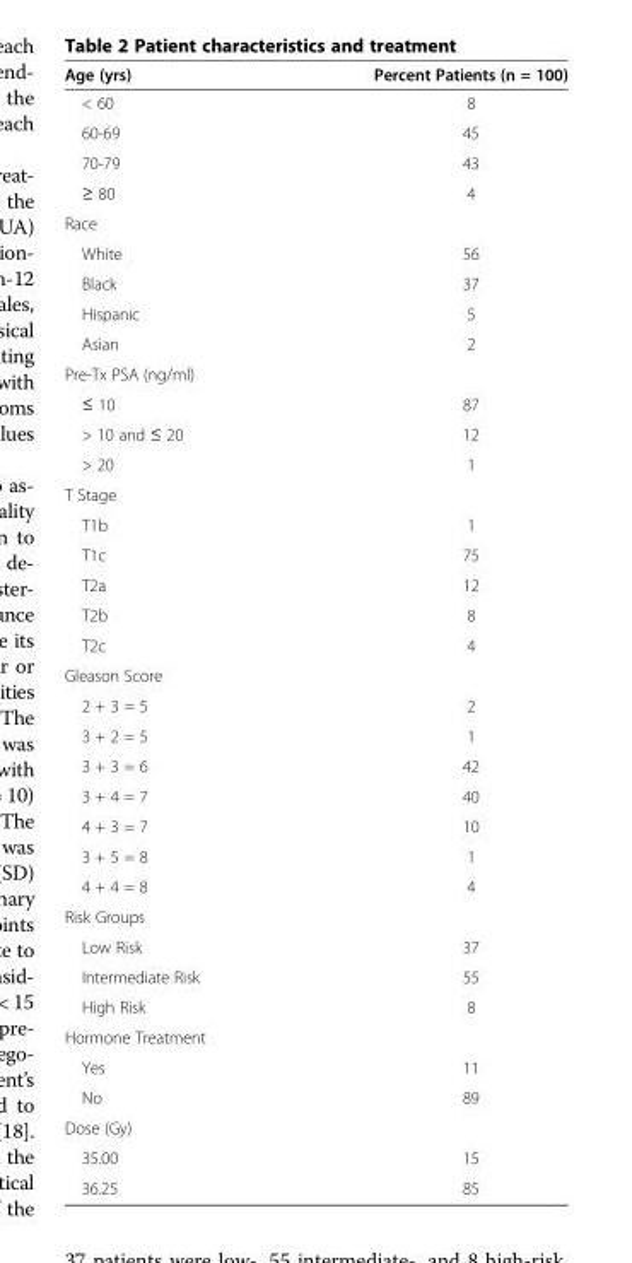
<table><thead><tr><td>Age (yrs)</td><td>Percent Patients (n = 100)</td></tr></thead><tbody><tr><td>&lt; 60</td><td>8</td></tr><tr><td>60-69</td><td>45</td></tr><tr><td>70-79</td><td>43</td></tr><tr><td>≥ 80</td><td>4</td></tr><tr><td colspan="2">Race</td></tr><tr><td>White</td><td>56</td></tr><tr><td>Black</td><td>37</td></tr><tr><td>Hispanic</td><td>5</td></tr><tr><td>Asian</td><td>2</td></tr><tr><td colspan="2">Pre-Tx PSA (ng/ml)</td></tr><tr><td>≤ 10</td><td>87</td></tr><tr><td>&gt; 10 and ≤ 20</td><td>12</td></tr><tr><td>&gt; 20</td><td>1</td></tr><tr><td colspan="2">T Stage</td></tr><tr><td>T1b</td><td>1</td></tr><tr><td>T1c</td><td>75</td></tr><tr><td>T2a</td><td>12</td></tr><tr><td>T2b</td><td>8</td></tr><tr><td>T2c</td><td>4</td></tr><tr><td colspan="2">Gleason Score</td></tr><tr><td>2 + 3 = 5</td><td>2</td></tr><tr><td>3 + 2 = 5</td><td>1</td></tr><tr><td>3 + 3 = 6</td><td>42</td></tr><tr><td>3 + 4 = 7</td><td>40</td></tr><tr><td>4 + 3 = 7</td><td>10</td></tr><tr><td>3 + 5 = 8</td><td>1</td></tr><tr><td>4 + 4 = 8</td><td>4</td></tr><tr><td colspan="2">Risk Groups</td></tr><tr><td>Low Risk</td><td>37</td></tr><tr><td>Intermediate Risk</td><td>55</td></tr><tr><td>High Risk</td><td>8</td></tr><tr><td colspan="2">Hormone Treatment</td></tr><tr><td>Yes</td><td>11</td></tr><tr><td>No</td><td>89</td></tr><tr><td colspan="2">Dose (Gy)</td></tr><tr><td>35.00</td><td>15</td></tr><tr><td>36.25</td><td>85</td></tr></tbody></table>